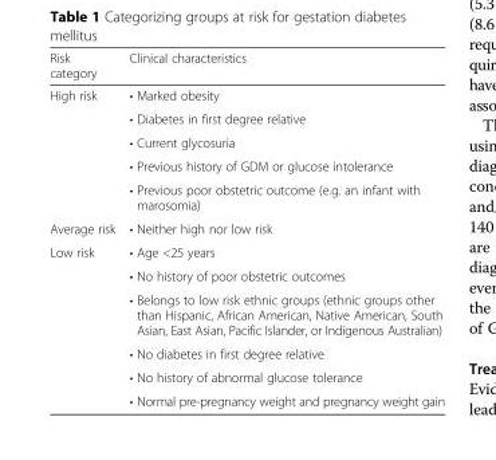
<table><thead><tr><td>Risk category</td><td>Clinical characteristics</td></tr></thead><tbody><tr><td rowspan="5">High risk</td><td>• Marked obesity</td></tr><tr><td>• Diabetes in first degree relative</td></tr><tr><td>• Current glycosuria</td></tr><tr><td>• Previous history of GDM or glucose intolerance</td></tr><tr><td>• Previous poor obstetric outcome (e.g. an infant with marosomia)</td></tr><tr><td>Average risk</td><td>• Neither high nor low risk</td></tr><tr><td rowspan="6">Low risk</td><td>• Age &lt;25 years</td></tr><tr><td>• No history of poor obstetric outcomes</td></tr><tr><td>• Belongs to low risk ethnic groups (ethnic groups other than Hispanic, African American, Native American, South Asian, East Asian, Pacific Islander, or Indigenous Australian)</td></tr><tr><td>• No diabetes in first degree relative</td></tr><tr><td>• No history of abnormal glucose tolerance</td></tr><tr><td>• Normal pre-pregnancy weight and pregnancy weight gain</td></tr></tbody></table>